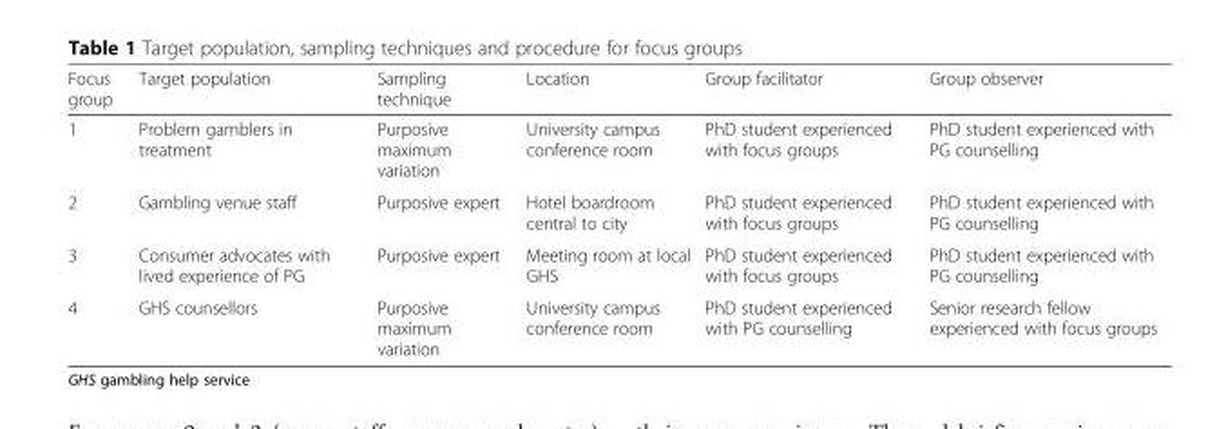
<table><thead><tr><td>Focus group</td><td>Target population</td><td>Sampling technique</td><td>Location</td><td>Group facilitator</td><td>Group observer</td></tr></thead><tbody><tr><td>1</td><td>Problem gamblers in treatment</td><td>Purposive maximum variation</td><td>University campus conference room</td><td>PhD student experienced with focus groups</td><td>PhD student experienced with PG counselling</td></tr><tr><td>2</td><td>Gambling venue staff</td><td>Purposive expert</td><td>Hotel boardroom central to city</td><td>PhD student experienced with focus groups</td><td>PhD student experienced with PG counselling</td></tr><tr><td>3</td><td>Consumer advocates with lived experience of PG</td><td>Purposive expert</td><td>Meeting room at local GHS</td><td>PhD student experienced with focus groups</td><td>PhD student experienced with PG counselling</td></tr><tr><td>4</td><td>GHS counsellors</td><td>Purposive maximum variation</td><td>University campus conference room</td><td>PhD student experienced with PG counselling</td><td>Senior research fellow experienced with focus groups</td></tr></tbody></table>